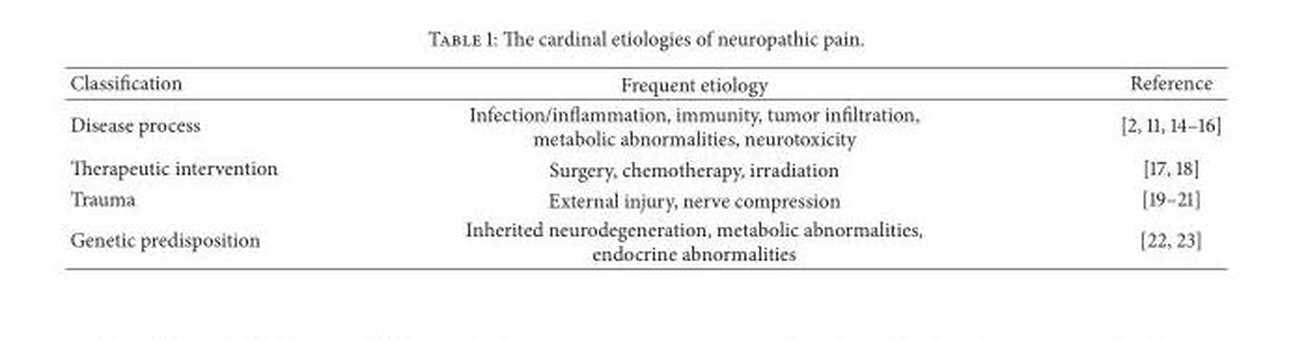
<table><thead><tr><td>Classification</td><td>Frequent etiology</td><td>Reference</td></tr></thead><tbody><tr><td>Disease process</td><td>Infection/inflammation, immunity, tumor infiltration, metabolic abnormalities, neurotoxicity</td><td>[2, 11, 14–16]</td></tr><tr><td>Therapeutic intervention</td><td>Surgery, chemotherapy, irradiation</td><td>[17, 18]</td></tr><tr><td>Trauma</td><td>External injury, nerve compression</td><td>[19–21]</td></tr><tr><td>Genetic predisposition</td><td>Inherited neurodegeneration, metabolic abnormalities, endocrine abnormalities</td><td>[22, 23]</td></tr></tbody></table>